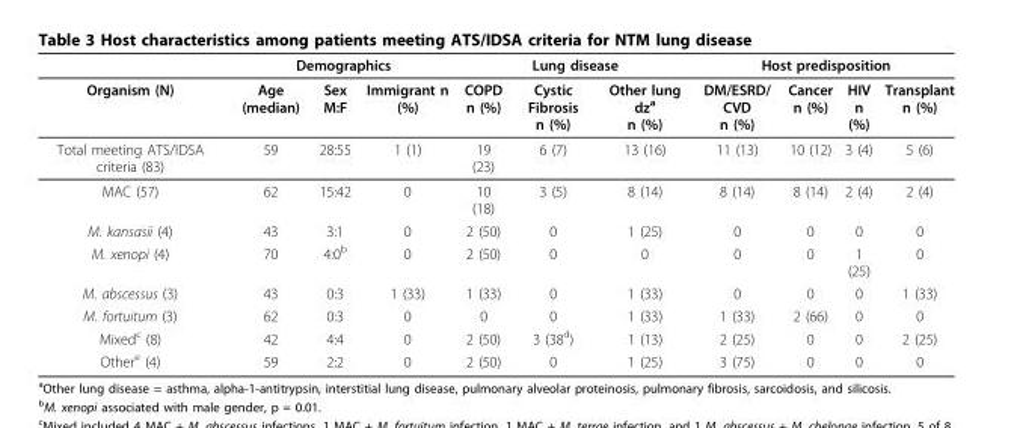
<table><thead><tr><td rowspan="2">Organism (N)</td><td colspan="3">Demographics</td><td colspan="3">Lung disease</td><td colspan="4">Host predisposition</td></tr><tr><td>Age (median)</td><td>Sex M:F</td><td>Immigrant n (%)</td><td>COPD n (%)</td><td>Cystic Fibrosis n (%)</td><td>Other lung dz<sup>a</sup> n (%)</td><td>DM/ESRD/ CVD n (%)</td><td>Cancer n (%)</td><td>HIV n (%)</td><td>Transplant n (%)</td></tr></thead><tbody><tr><td>Total meeting ATS/IDSA criteria (83)</td><td>59</td><td>28:55</td><td>1 (1)</td><td>19 (23)</td><td>6 (7)</td><td>13 (16)</td><td>11 (13)</td><td>10 (12)</td><td>3 (4)</td><td>5 (6)</td></tr><tr><td>MAC (57)</td><td>62</td><td>15:42</td><td>0</td><td>10 (18)</td><td>3 (5)</td><td>8 (14)</td><td>8 (14)</td><td>8 (14)</td><td>2 (4)</td><td>2 (4)</td></tr><tr><td>M. kansasii (4)</td><td>43</td><td>3:1</td><td>0</td><td>2 (50)</td><td>0</td><td>1 (25)</td><td>0</td><td>0</td><td>0</td><td>0</td></tr><tr><td>M. xenopi (4)</td><td>70</td><td>4:0<sup>b</sup></td><td>0</td><td>2 (50)</td><td>0</td><td>0</td><td>0</td><td>0</td><td>1 (25)</td><td>0</td></tr><tr><td>M. abscessus (3)</td><td>43</td><td>0:3</td><td>1 (33)</td><td>1 (33)</td><td>0</td><td>1 (33)</td><td>0</td><td>0</td><td>0</td><td>1 (33)</td></tr><tr><td>M. fortuitum (3)</td><td>62</td><td>0:3</td><td>0</td><td>0</td><td>0</td><td>1 (33)</td><td>1 (33)</td><td>2 (66)</td><td>0</td><td>0</td></tr><tr><td>Mixed<sup>c</sup> (8)</td><td>42</td><td>4:4</td><td>0</td><td>2 (50)</td><td>3 (38<sup>d</sup>)</td><td>1 (13)</td><td>2 (25)</td><td>0</td><td>0</td><td>2 (25)</td></tr><tr><td>Other<sup>e</sup> (4)</td><td>59</td><td>2:2</td><td>0</td><td>2 (50)</td><td>0</td><td>1 (25)</td><td>3 (75)</td><td>0</td><td>0</td><td>0</td></tr></tbody></table>